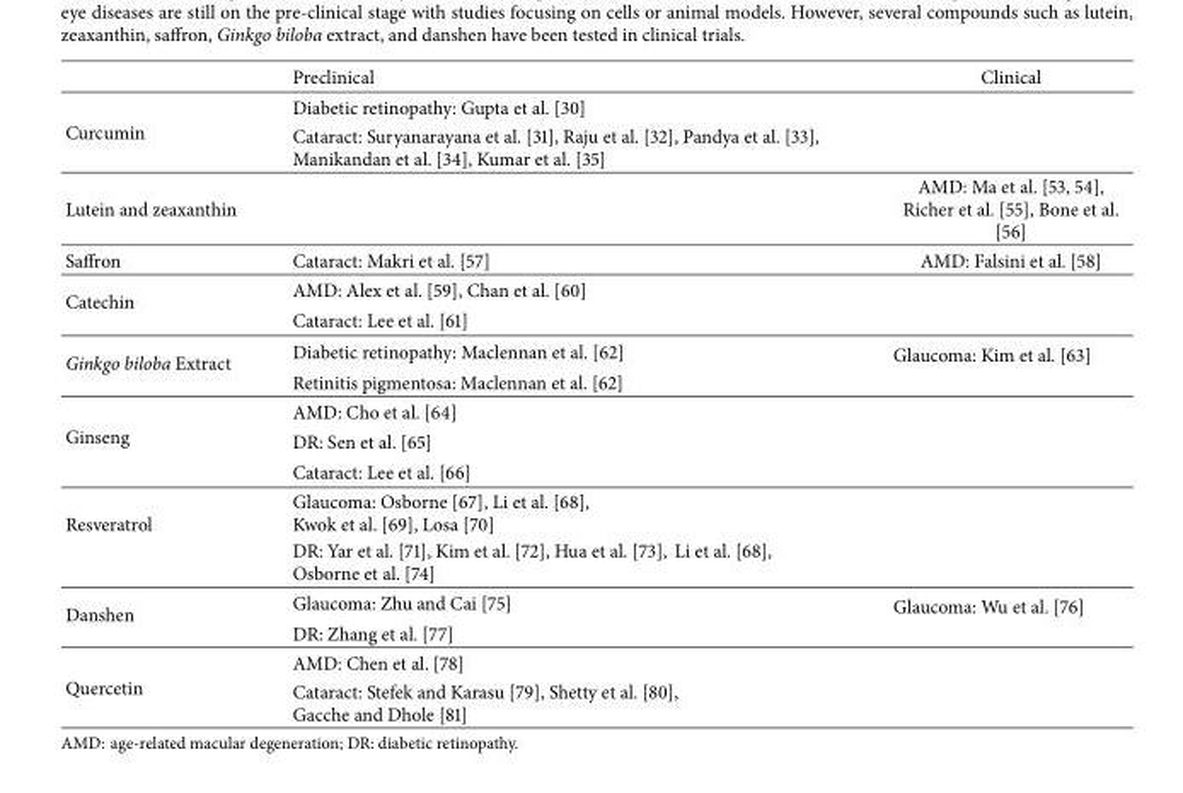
<table><thead><tr><td></td><td>Preclinical</td><td>Clinical</td></tr></thead><tbody><tr><td rowspan="2">Curcumin</td><td>Diabetic retinopathy: Gupta et al. [30]</td><td></td></tr><tr><td>Cataract: Suryanarayana et al. [31], Raju et al. [32], Pandya et al. [33], Manikandan et al. [34], Kumar et al. [35]</td><td></td></tr><tr><td>Lutein and zeaxanthin</td><td></td><td>AMD: Ma et al. [53, 54], Richer et al. [55], Bone et al. [56]</td></tr><tr><td>Saffron</td><td>Cataract: Makri et al. [57]</td><td>AMD: Falsini et al. [58]</td></tr><tr><td rowspan="2">Catechin</td><td>AMD: Alex et al. [59], Chan et al. [60]</td><td></td></tr><tr><td>Cataract: Lee et al. [61]</td><td></td></tr><tr><td rowspan="2">Ginkgo biloba Extract</td><td>Diabetic retinopathy: Maclennan et al. [62]</td><td rowspan="2">Glaucoma: Kim et al. [63]</td></tr><tr><td>Retinitis pigmentosa: Maclennan et al. [62]</td></tr><tr><td rowspan="3">Ginseng</td><td>AMD: Cho et al. [64]</td><td></td></tr><tr><td>DR: Sen et al. [65]</td><td></td></tr><tr><td>Cataract: Lee et al. [66]</td><td></td></tr><tr><td rowspan="2">Resveratrol</td><td>Glaucoma: Osborne [67], Li et al. [68], Kwok et al. [69], Losa [70]</td><td></td></tr><tr><td>DR: Yar et al. [71], Kim et al. [72], Hua et al. [73], Li et al. [68], Osborne et al. [74]</td><td></td></tr><tr><td rowspan="2">Danshen</td><td>Glaucoma: Zhu and Cai [75]</td><td rowspan="2">Glaucoma: Wu et al. [76]</td></tr><tr><td>DR: Zhang et al. [77]</td></tr><tr><td rowspan="2">Quercetin</td><td>AMD: Chen et al. [78]</td><td></td></tr><tr><td>Cataract: Stefek and Karasu [79], Shetty et al. [80], Gacche and Dhole [81]</td><td></td></tr></tbody></table>